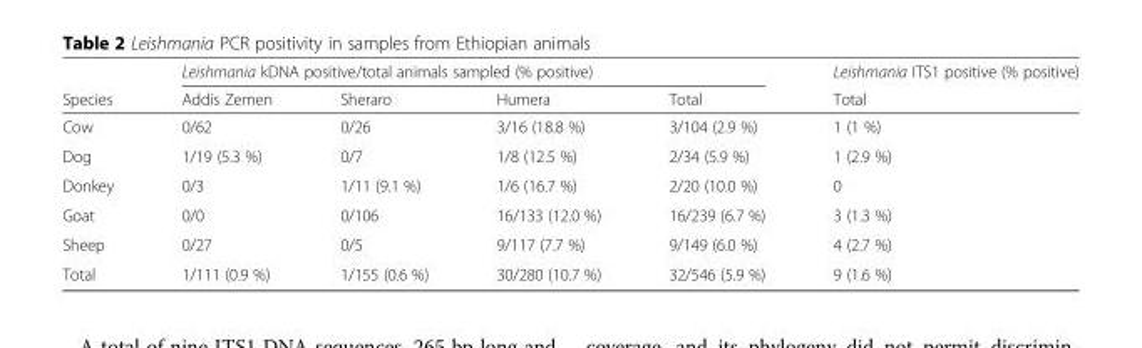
<table><thead><tr><td rowspan="2">Species</td><td colspan="4">Leishmania kDNA positive/total animals sampled (% positive)</td><td rowspan="2">Leishmania ITS1 positive (% positive) Total</td></tr><tr><td>Addis Zemen</td><td>Sheraro</td><td>Humera</td><td>Total</td></tr></thead><tbody><tr><td>Cow</td><td>0/62</td><td>0/26</td><td>3/16 (18.8 %)</td><td>3/104 (2.9 %)</td><td>1 (1 %)</td></tr><tr><td>Dog</td><td>1/19 (5.3 %)</td><td>0/7</td><td>1/8 (12.5 %)</td><td>2/34 (5.9 %)</td><td>1 (2.9 %)</td></tr><tr><td>Donkey</td><td>0/3</td><td>1/11 (9.1 %)</td><td>1/6 (16.7 %)</td><td>2/20 (10.0 %)</td><td>0</td></tr><tr><td>Goat</td><td>0/0</td><td>0/106</td><td>16/133 (12.0 %)</td><td>16/239 (6.7 %)</td><td>3 (1.3 %)</td></tr><tr><td>Sheep</td><td>0/27</td><td>0/5</td><td>9/117 (7.7 %)</td><td>9/149 (6.0 %)</td><td>4 (2.7 %)</td></tr><tr><td>Total</td><td>1/111 (0.9 %)</td><td>1/155 (0.6 %)</td><td>30/280 (10.7 %)</td><td>32/546 (5.9 %)</td><td>9 (1.6 %)</td></tr></tbody></table>